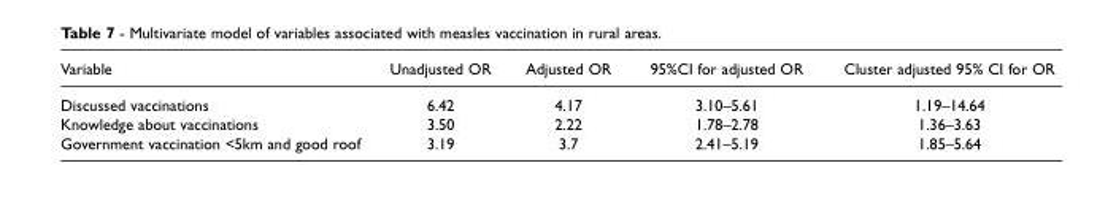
<table><thead><tr><td>Variable</td><td>Unadjusted OR</td><td>Adjusted OR</td><td>95%CI for adjusted OR</td><td>Cluster adjusted 95% CI for OR</td></tr></thead><tbody><tr><td>Discussed vaccinations</td><td>6.42</td><td>4.17</td><td>3.10–5.61</td><td>1.19–14.64</td></tr><tr><td>Knowledge about vaccinations</td><td>3.50</td><td>2.22</td><td>1.78–2.78</td><td>1.36–3.63</td></tr><tr><td>Government vaccination &lt;5km and good roof</td><td>3.19</td><td>3.7</td><td>2.41–5.19</td><td>1.85–5.64</td></tr></tbody></table>